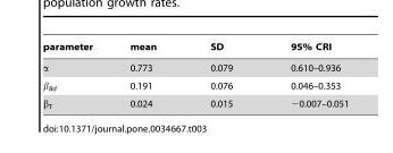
<table><thead><tr><td>parameter</td><td>mean</td><td>SD</td><td>95% CRI</td></tr></thead><tbody><tr><td>α</td><td>0.773</td><td>0.079</td><td>0.610–0.936</td></tr><tr><td>β<sub>Bd</sub></td><td>0.191</td><td>0.076</td><td>0.046–0.353</td></tr><tr><td>β<sub>T</sub></td><td>0.024</td><td>0.015</td><td>−0.007–0.051</td></tr></tbody></table>